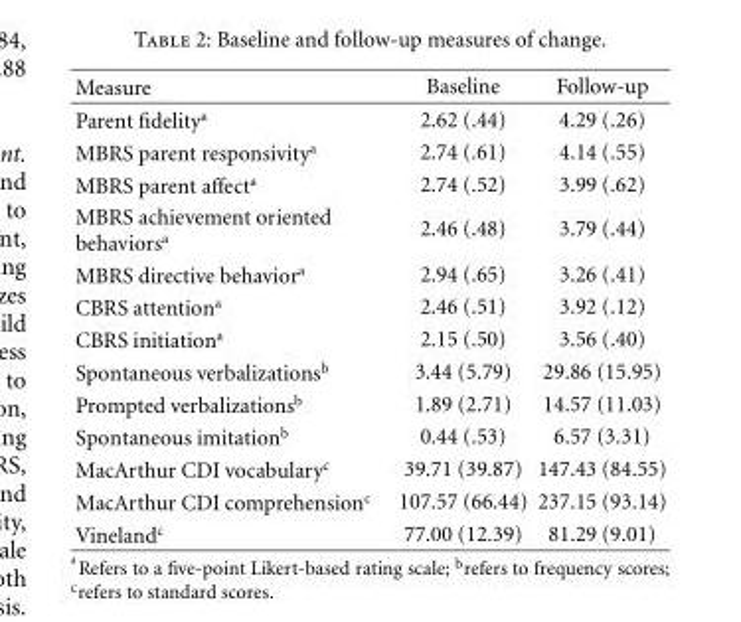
<table><thead><tr><td>Measure</td><td>Baseline</td><td>Follow-up</td></tr></thead><tbody><tr><td>Parent fidelity<sup>a</sup></td><td>2.62 (.44)</td><td>4.29 (.26)</td></tr><tr><td>MBRS parent responsivity<sup>a</sup></td><td>2.74 (.61)</td><td>4.14 (.55)</td></tr><tr><td>MBRS parent affect<sup>a</sup></td><td>2.74 (.52)</td><td>3.99 (.62)</td></tr><tr><td>MBRS achievement oriented behaviors<sup>a</sup></td><td>2.46 (.48)</td><td>3.79 (.44)</td></tr><tr><td>MBRS directive behavior<sup>a</sup></td><td>2.94 (.65)</td><td>3.26 (.41)</td></tr><tr><td>CBRS attention<sup>a</sup></td><td>2.46 (.51)</td><td>3.92 (.12)</td></tr><tr><td>CBRS initiation<sup>a</sup></td><td>2.15 (.50)</td><td>3.56 (.40)</td></tr><tr><td>Spontaneous verbalizations<sup>b</sup></td><td>3.44 (5.79)</td><td>29.86 (15.95)</td></tr><tr><td>Prompted verbalizations<sup>b</sup></td><td>1.89 (2.71)</td><td>14.57 (11.03)</td></tr><tr><td>Spontaneous imitation<sup>b</sup></td><td>0.44 (.53)</td><td>6.57 (3.31)</td></tr><tr><td>MacArthur CDI vocabulary<sup>c</sup></td><td>39.71 (39.87)</td><td>147.43 (84.55)</td></tr><tr><td>MacArthur CDI comprehension<sup>c</sup></td><td>107.57 (66.44)</td><td>237.15 (93.14)</td></tr><tr><td>Vineland<sup>c</sup></td><td>77.00 (12.39)</td><td>81.29 (9.01)</td></tr></tbody></table>